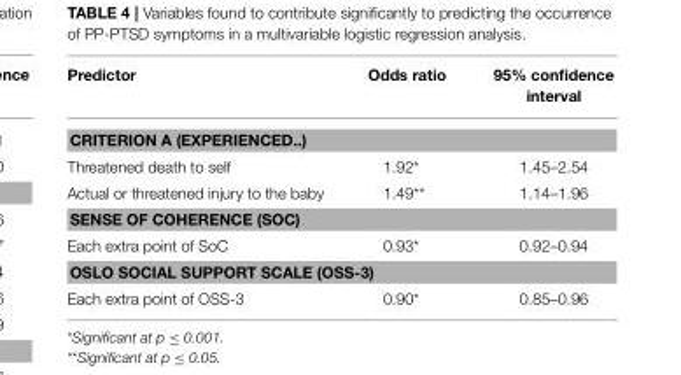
<table><thead><tr><td>Predictor</td><td>Odds ratio</td><td>95% confidence interval</td></tr></thead><tbody><tr><td colspan="3">CRITERION A (EXPERIENCED..)</td></tr><tr><td>Threatened death to self</td><td>1.92*</td><td>1.45–2.54</td></tr><tr><td>Actual or threatened injury to the baby</td><td>1.49**</td><td>1.14–1.96</td></tr><tr><td colspan="3">SENSE OF COHERENCE (SOC)</td></tr><tr><td>Each extra point of SoC</td><td>0.93*</td><td>0.92–0.94</td></tr><tr><td colspan="3">OSLO SOCIAL SUPPORT SCALE (OSS-3)</td></tr><tr><td>Each extra point of OSS-3</td><td>0.90*</td><td>0.85–0.96</td></tr></tbody></table>